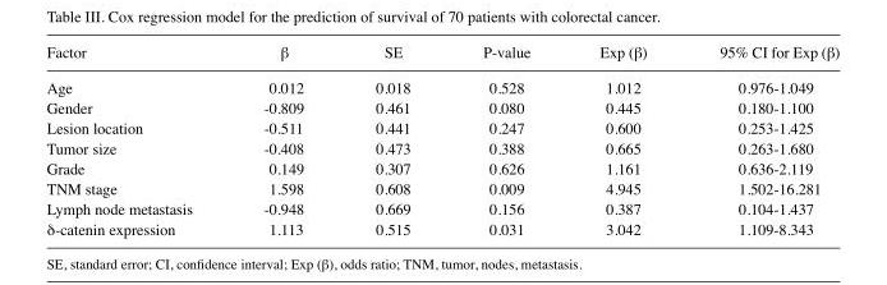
<table><thead><tr><td>Factor</td><td>β</td><td>SE</td><td>P‑value</td><td>Exp (β)</td><td>95% CI for Exp (β)</td></tr></thead><tbody><tr><td>Age</td><td>0.012</td><td>0.018</td><td>0.528</td><td>1.012</td><td>0.976‑1.049</td></tr><tr><td>Gender</td><td>‑0.809</td><td>0.461</td><td>0.080</td><td>0.445</td><td>0.180‑1.100</td></tr><tr><td>Lesion location</td><td>‑0.511</td><td>0.441</td><td>0.247</td><td>0.600</td><td>0.253‑1.425</td></tr><tr><td>Tumor size</td><td>‑0.408</td><td>0.473</td><td>0.388</td><td>0.665</td><td>0.263‑1.680</td></tr><tr><td>Grade</td><td>0.149</td><td>0.307</td><td>0.626</td><td>1.161</td><td>0.636‑2.119</td></tr><tr><td>TNM stage</td><td>1.598</td><td>0.608</td><td>0.009</td><td>4.945</td><td>1.502-16.281</td></tr><tr><td>Lymph node metastasis</td><td>‑0.948</td><td>0.669</td><td>0.156</td><td>0.387</td><td>0.104‑1.437</td></tr><tr><td>δ-catenin expression</td><td>1.113</td><td>0.515</td><td>0.031</td><td>3.042</td><td>1.109-8.343</td></tr></tbody></table>